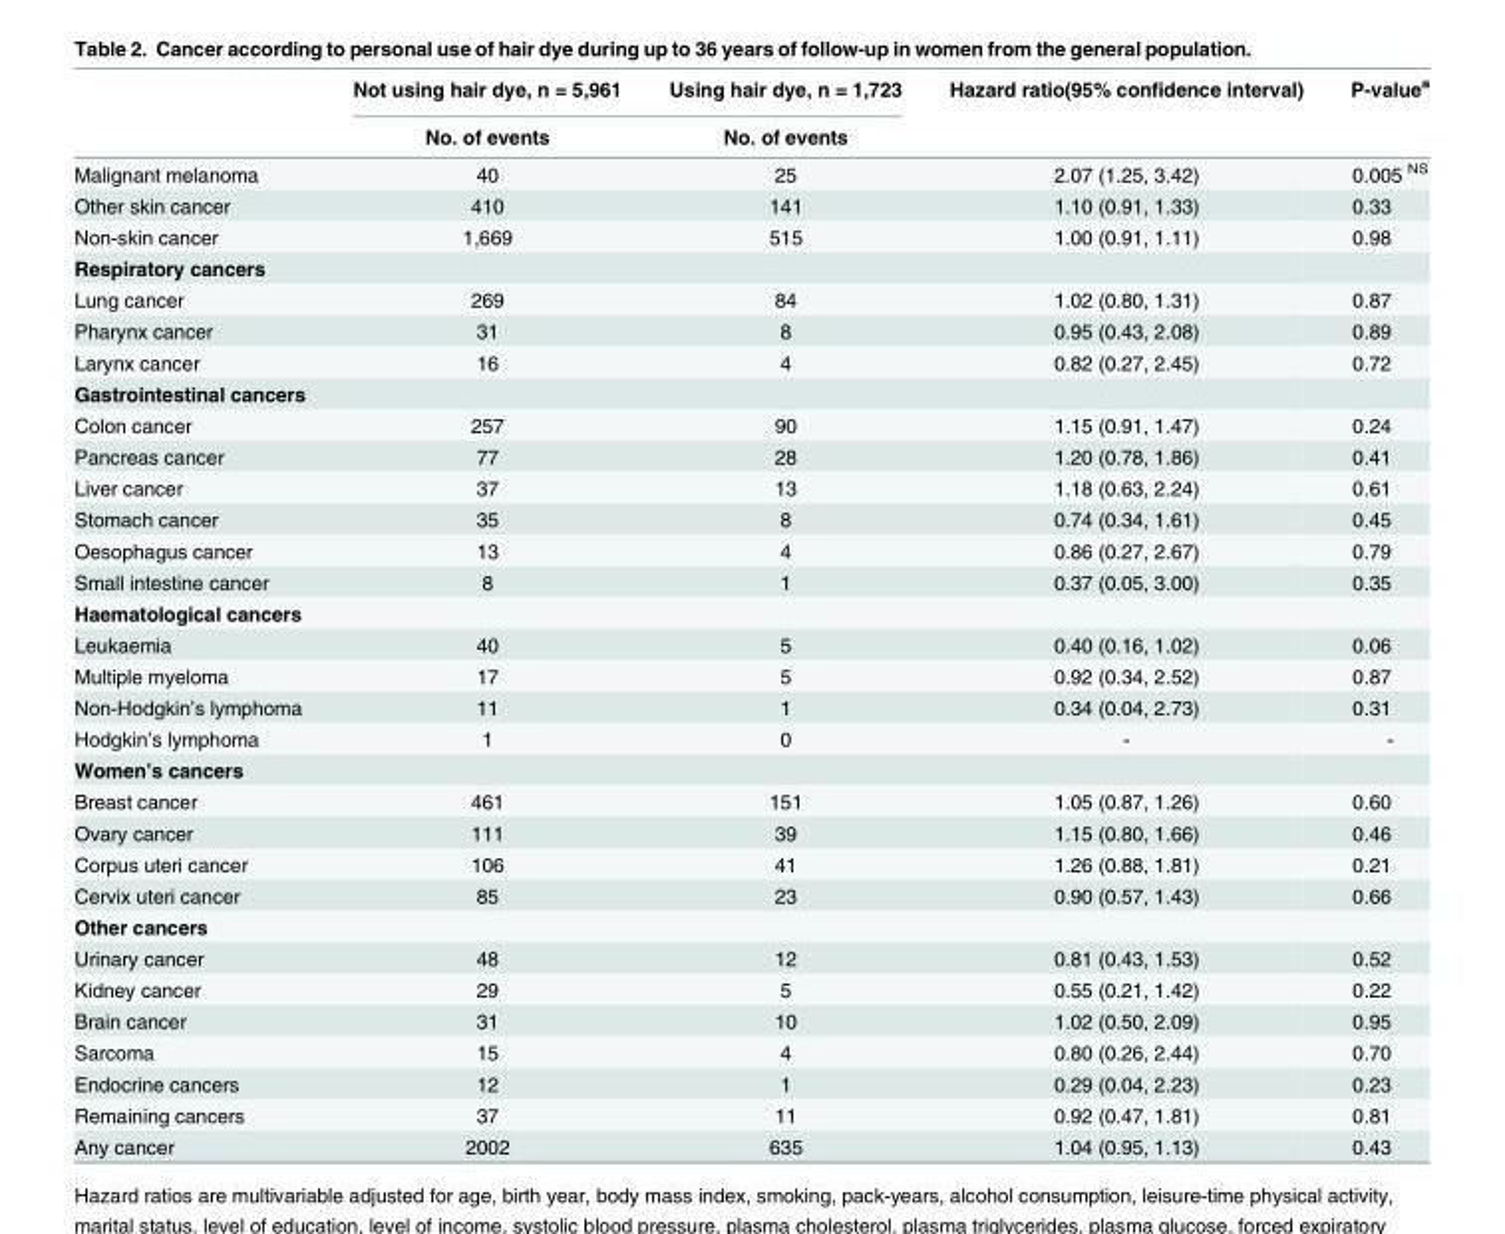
<table><thead><tr><td rowspan="2"></td><td rowspan="2">Not using hair dye, n = 5,961 No. of events</td><td rowspan="2">Using hair dye, n = 1,723 No. of events</td><td rowspan="2">Hazard ratio(95% confidence interval)</td><td rowspan="2">P-value<sup>a</sup></td></tr><tr></tr></thead><tbody><tr><td>Malignant melanoma</td><td>40</td><td>25</td><td>2.07 (1.25, 3.42)</td><td>0.005 <sup>NS</sup></td></tr><tr><td>Other skin cancer</td><td>410</td><td>141</td><td>1.10 (0.91, 1.33)</td><td>0.33</td></tr><tr><td>Non-skin cancer</td><td>1,669</td><td>515</td><td>1.00 (0.91, 1.11)</td><td>0.98</td></tr><tr><td colspan="5">Respiratory cancers</td></tr><tr><td>Lung cancer</td><td>269</td><td>84</td><td>1.02 (0.80, 1.31)</td><td>0.87</td></tr><tr><td>Pharynx cancer</td><td>31</td><td>8</td><td>0.95 (0.43, 2.08)</td><td>0.89</td></tr><tr><td>Larynx cancer</td><td>16</td><td>4</td><td>0.82 (0.27, 2.45)</td><td>0.72</td></tr><tr><td colspan="5">Gastrointestinal cancers</td></tr><tr><td>Colon cancer</td><td>257</td><td>90</td><td>1.15 (0.91, 1.47)</td><td>0.24</td></tr><tr><td>Pancreas cancer</td><td>77</td><td>28</td><td>1.20 (0.78, 1.86)</td><td>0.41</td></tr><tr><td>Liver cancer</td><td>37</td><td>13</td><td>1.18 (0.63, 2.24)</td><td>0.61</td></tr><tr><td>Stomach cancer</td><td>35</td><td>8</td><td>0.74 (0.34, 1.61)</td><td>0.45</td></tr><tr><td>Oesophagus cancer</td><td>13</td><td>4</td><td>0.86 (0.27, 2.67)</td><td>0.79</td></tr><tr><td>Small intestine cancer</td><td>8</td><td>1</td><td>0.37 (0.05, 3.00)</td><td>0.35</td></tr><tr><td colspan="5">Haematological cancers</td></tr><tr><td>Leukaemia</td><td>40</td><td>5</td><td>0.40 (0.16, 1.02)</td><td>0.06</td></tr><tr><td>Multiple myeloma</td><td>17</td><td>5</td><td>0.92 (0.34, 2.52)</td><td>0.87</td></tr><tr><td>Non-Hodgkin’s lymphoma</td><td>11</td><td>1</td><td>0.34 (0.04, 2.73)</td><td>0.31</td></tr><tr><td>Hodgkin’s lymphoma</td><td>1</td><td>0</td><td>-</td><td>-</td></tr><tr><td colspan="5">Women’s cancers</td></tr><tr><td>Breast cancer</td><td>461</td><td>151</td><td>1.05 (0.87, 1.26)</td><td>0.60</td></tr><tr><td>Ovary cancer</td><td>111</td><td>39</td><td>1.15 (0.80, 1.66)</td><td>0.46</td></tr><tr><td>Corpus uteri cancer</td><td>106</td><td>41</td><td>1.26 (0.88, 1.81)</td><td>0.21</td></tr><tr><td>Cervix uteri cancer</td><td>85</td><td>23</td><td>0.90 (0.57, 1.43)</td><td>0.66</td></tr><tr><td colspan="5">Other cancers</td></tr><tr><td>Urinary cancer</td><td>48</td><td>12</td><td>0.81 (0.43, 1.53)</td><td>0.52</td></tr><tr><td>Kidney cancer</td><td>29</td><td>5</td><td>0.55 (0.21, 1.42)</td><td>0.22</td></tr><tr><td>Brain cancer</td><td>31</td><td>10</td><td>1.02 (0.50, 2.09)</td><td>0.95</td></tr><tr><td>Sarcoma</td><td>15</td><td>4</td><td>0.80 (0.26, 2.44)</td><td>0.70</td></tr><tr><td>Endocrine cancers</td><td>12</td><td>1</td><td>0.29 (0.04, 2.23)</td><td>0.23</td></tr><tr><td>Remaining cancers</td><td>37</td><td>11</td><td>0.92 (0.47, 1.81)</td><td>0.81</td></tr><tr><td>Any cancer</td><td>2002</td><td>635</td><td>1.04 (0.95, 1.13)</td><td>0.43</td></tr></tbody></table>